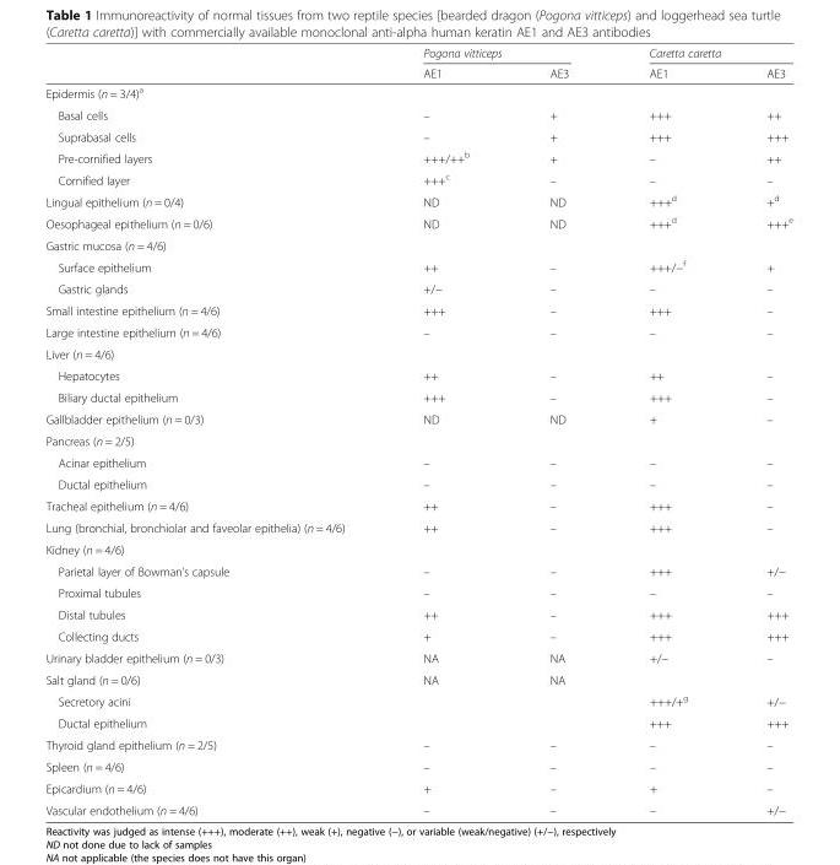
<table><thead><tr><td rowspan="2"></td><td colspan="2">Pogona vitticeps</td><td colspan="2">Caretta caretta</td></tr><tr><td>AE1</td><td>AE3</td><td>AE1</td><td>AE3</td></tr></thead><tbody><tr><td colspan="5">Epidermis (n = 3/4)<sup>a</sup></td></tr><tr><td>Basal cells</td><td>–</td><td>+</td><td>+++</td><td>++</td></tr><tr><td>Suprabasal cells</td><td>–</td><td>+</td><td>+++</td><td>+++</td></tr><tr><td>Pre-cornified layers</td><td>+++/++<sup>b</sup></td><td>+</td><td>–</td><td>++</td></tr><tr><td>Cornified layer</td><td>+++<sup>c</sup></td><td>–</td><td>–</td><td>–</td></tr><tr><td>Lingual epithelium (n = 0/4)</td><td>ND</td><td>ND</td><td>+++<sup>d</sup></td><td>+<sup>d</sup></td></tr><tr><td>Oesophageal epithelium (n = 0/6)</td><td>ND</td><td>ND</td><td>+++<sup>d</sup></td><td>+++<sup>e</sup></td></tr><tr><td colspan="5">Gastric mucosa (n = 4/6)</td></tr><tr><td>Surface epithelium</td><td>++</td><td>–</td><td>+++/−<sup>f</sup></td><td>+</td></tr><tr><td>Gastric glands</td><td>+/−</td><td>–</td><td>–</td><td>–</td></tr><tr><td>Small intestine epithelium (n = 4/6)</td><td>+++</td><td>–</td><td>+++</td><td>–</td></tr><tr><td>Large intestine epithelium (n = 4/6)</td><td>–</td><td>–</td><td>–</td><td>–</td></tr><tr><td colspan="5">Liver (n = 4/6)</td></tr><tr><td>Hepatocytes</td><td>++</td><td>–</td><td>++</td><td>–</td></tr><tr><td>Biliary ductal epithelium</td><td>+++</td><td>–</td><td>+++</td><td>–</td></tr><tr><td>Gallbladder epithelium (n = 0/3)</td><td>ND</td><td>ND</td><td>+</td><td>–</td></tr><tr><td colspan="5">Pancreas (n = 2/5)</td></tr><tr><td>Acinar epithelium</td><td>–</td><td>–</td><td>–</td><td>–</td></tr><tr><td>Ductal epithelium</td><td>–</td><td>–</td><td>–</td><td>–</td></tr><tr><td>Tracheal epithelium (n = 4/6)</td><td>++</td><td>–</td><td>+++</td><td>–</td></tr><tr><td>Lung (bronchial, bronchiolar and faveolar epithelia) (n = 4/6)</td><td>++</td><td>–</td><td>+++</td><td>–</td></tr><tr><td colspan="5">Kidney (n = 4/6)</td></tr><tr><td>Parietal layer of Bowman’s capsule</td><td>–</td><td>–</td><td>+++</td><td>+/−</td></tr><tr><td>Proximal tubules</td><td>–</td><td>–</td><td>–</td><td>–</td></tr><tr><td>Distal tubules</td><td>++</td><td>–</td><td>+++</td><td>+++</td></tr><tr><td>Collecting ducts</td><td>+</td><td>–</td><td>+++</td><td>+++</td></tr><tr><td>Urinary bladder epithelium (n = 0/3)</td><td>NA</td><td>NA</td><td>+/−</td><td>–</td></tr><tr><td>Salt gland (n = 0/6)</td><td>NA</td><td>NA</td><td></td><td></td></tr><tr><td>Secretory acini</td><td></td><td></td><td>+++/+<sup>g</sup></td><td>+/−</td></tr><tr><td>Ductal epithelium</td><td></td><td></td><td>+++</td><td>+++</td></tr><tr><td>Thyroid gland epithelium (n = 2/5)</td><td>–</td><td>–</td><td>–</td><td>–</td></tr><tr><td>Spleen (n = 4/6)</td><td>–</td><td>–</td><td>–</td><td>–</td></tr><tr><td>Epicardium (n = 4/6)</td><td>+</td><td>–</td><td>+</td><td>–</td></tr><tr><td>Vascular endothelium (n = 4/6)</td><td>–</td><td>–</td><td>–</td><td>+/−</td></tr></tbody></table>